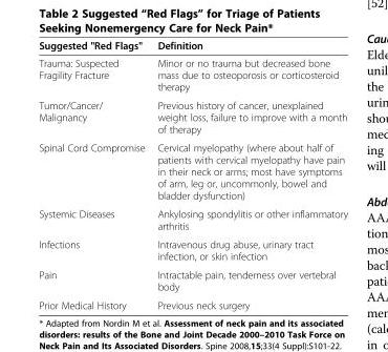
<table><thead><tr><td>Suggested &quot;Red Flags&quot;</td><td>Definition</td></tr></thead><tbody><tr><td>Trauma: Suspected Fragility Fracture</td><td>Minor or no trauma but decreased bone mass due to osteoporosis or corticosteroid therapy</td></tr><tr><td>Tumor/Cancer/ Malignancy</td><td>Previous history of cancer, unexplained weight loss, failure to improve with a month of therapy</td></tr><tr><td>Spinal Cord Compromise</td><td>Cervical myelopathy (where about half of patients with cervical myelopathy have pain in their neck or arms; most have symptoms of arm, leg or, uncommonly, bowel and bladder dysfunction)</td></tr><tr><td>Systemic Diseases</td><td>Ankylosing spondylitis or other inflammatory arthritis</td></tr><tr><td>Infections</td><td>Intravenous drug abuse, urinary tract infection, or skin infection</td></tr><tr><td>Pain</td><td>Intractable pain, tenderness over vertebral body</td></tr><tr><td>Prior Medical History</td><td>Previous neck surgery</td></tr></tbody></table>